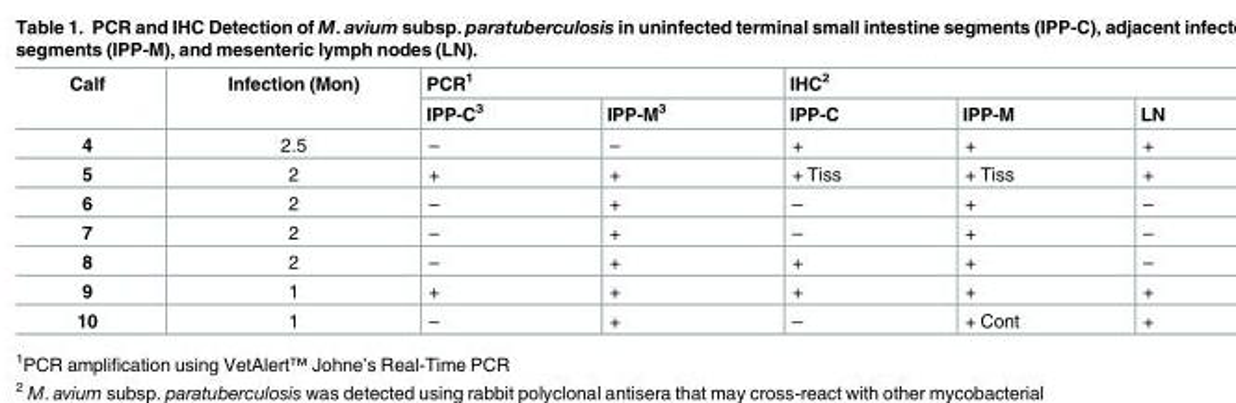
<table><thead><tr><td rowspan="2">Calf</td><td rowspan="2">Infection (Mon)</td><td colspan="2">PCR<sup>1</sup></td><td colspan="3">IHC<sup>2</sup></td></tr><tr><td>IPP-C<sup>3</sup></td><td>IPP-M<sup>3</sup></td><td>IPP-C</td><td>IPP-M</td><td>LN</td></tr></thead><tbody><tr><td>4</td><td>2.5</td><td>–</td><td>–</td><td>+</td><td>+</td><td>+</td></tr><tr><td>5</td><td>2</td><td>+</td><td>+</td><td>+ Tiss</td><td>+ Tiss</td><td>+</td></tr><tr><td>6</td><td>2</td><td>–</td><td>+</td><td>–</td><td>+</td><td>–</td></tr><tr><td>7</td><td>2</td><td>–</td><td>+</td><td>–</td><td>+</td><td>–</td></tr><tr><td>8</td><td>2</td><td>–</td><td>+</td><td>+</td><td>+</td><td>–</td></tr><tr><td>9</td><td>1</td><td>+</td><td>+</td><td>+</td><td>+</td><td>+</td></tr><tr><td>10</td><td>1</td><td>–</td><td>+</td><td>–</td><td>+ Cont</td><td>+</td></tr></tbody></table>